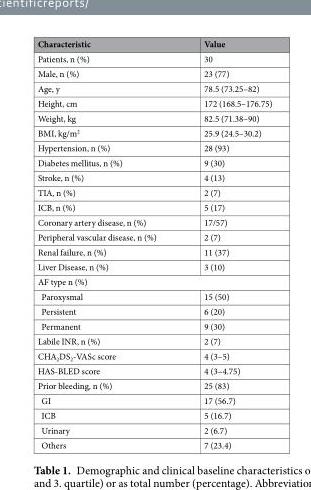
<table><thead><tr><td>Characteristic</td><td>Value</td></tr></thead><tbody><tr><td>Patients, n (%)</td><td>30</td></tr><tr><td>Male, n (%)</td><td>23 (77)</td></tr><tr><td>Age, y</td><td>78.5 (73.25–82)</td></tr><tr><td>Height, cm</td><td>172 (168.5–176.75)</td></tr><tr><td>Weight, kg</td><td>82.5 (71.38–90)</td></tr><tr><td>BMI, kg/m<sup>2</sup></td><td>25.9 (24.5–30.2)</td></tr><tr><td>Hypertension, n (%)</td><td>28 (93)</td></tr><tr><td>Diabetes mellitus, n (%)</td><td>9 (30)</td></tr><tr><td>Stroke, n (%)</td><td>4 (13)</td></tr><tr><td>TIA, n (%)</td><td>2 (7)</td></tr><tr><td>ICB, n (%)</td><td>5 (17)</td></tr><tr><td>Coronary artery disease, n (%)</td><td>17/57)</td></tr><tr><td>Peripheral vascular disease, n (%)</td><td>2 (7)</td></tr><tr><td>Renal failure, n (%)</td><td>11 (37)</td></tr><tr><td>Liver Disease, n (%)</td><td>3 (10)</td></tr><tr><td colspan="2">AF type n (%)</td></tr><tr><td>Paroxysmal</td><td>15 (50)</td></tr><tr><td>Persistent</td><td>6 (20)</td></tr><tr><td>Permanent</td><td>9 (30)</td></tr><tr><td>Labile INR, n (%)</td><td>2 (7)</td></tr><tr><td>CHA<sub>2</sub>DS<sub>2</sub>-VASc score</td><td>4 (3–5)</td></tr><tr><td>HAS-BLED score</td><td>4 (3–4.75)</td></tr><tr><td>Prior bleeding, n (%)</td><td>25 (83)</td></tr><tr><td>GI</td><td>17 (56.7)</td></tr><tr><td>ICB</td><td>5 (16.7)</td></tr><tr><td>Urinary</td><td>2 (6.7)</td></tr><tr><td>Others</td><td>7 (23.4)</td></tr></tbody></table>